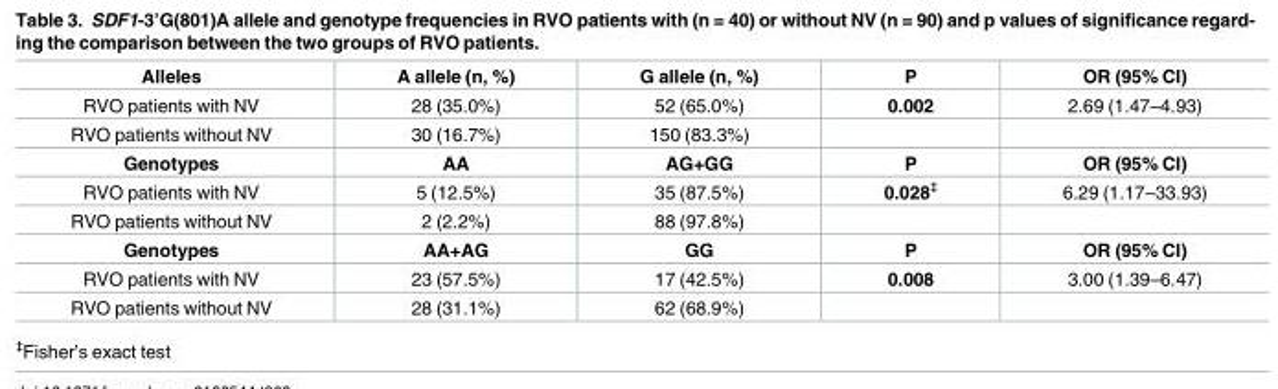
<table><tbody><tr><td>Alleles</td><td>A allele (n, %)</td><td>G allele (n, %)</td><td>P</td><td>OR (95% CI)</td></tr><tr><td>RVO patients with NV</td><td>28 (35.0%)</td><td>52 (65.0%)</td><td>0.002</td><td>2.69 (1.47–4.93)</td></tr><tr><td>RVO patients without NV</td><td>30 (16.7%)</td><td>150 (83.3%)</td><td></td><td></td></tr><tr><td>Genotypes</td><td>AA</td><td>AG+GG</td><td>P</td><td>OR (95% CI)</td></tr><tr><td>RVO patients with NV</td><td>5 (12.5%)</td><td>35 (87.5%)</td><td>0.028<sup>‡</sup></td><td>6.29 (1.17–33.93)</td></tr><tr><td>RVO patients without NV</td><td>2 (2.2%)</td><td>88 (97.8%)</td><td></td><td></td></tr><tr><td>Genotypes</td><td>AA+AG</td><td>GG</td><td>P</td><td>OR (95% CI)</td></tr><tr><td>RVO patients with NV</td><td>23 (57.5%)</td><td>17 (42.5%)</td><td>0.008</td><td>3.00 (1.39–6.47)</td></tr><tr><td>RVO patients without NV</td><td>28 (31.1%)</td><td>62 (68.9%)</td><td></td><td></td></tr></tbody></table>